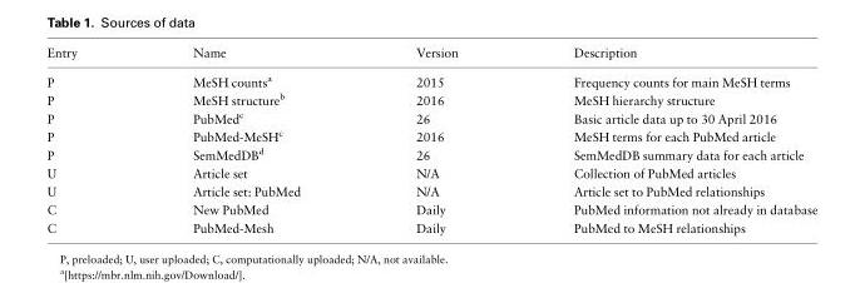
<table><thead><tr><td>Entry</td><td>Name</td><td>Version</td><td>Description</td></tr></thead><tbody><tr><td>P</td><td>MeSH counts<sup>a</sup></td><td>2015</td><td>Frequency counts for main MeSH terms</td></tr><tr><td>P</td><td>MeSH structure<sup>b</sup></td><td>2016</td><td>MeSH hierarchy structure</td></tr><tr><td>P</td><td>PubMed<sup>c</sup></td><td>26</td><td>Basic article data up to 30 April 2016</td></tr><tr><td>P</td><td>PubMed-MeSH<sup>c</sup></td><td>2016</td><td>MeSH terms for each PubMed article</td></tr><tr><td>P</td><td>SemMedDB<sup>d</sup></td><td>26</td><td>SemMedDB summary data for each article</td></tr><tr><td>U</td><td>Article set</td><td>N/A</td><td>Collection of PubMed articles</td></tr><tr><td>U</td><td>Article set: PubMed</td><td>N/A</td><td>Article set to PubMed relationships</td></tr><tr><td>C</td><td>New PubMed</td><td>Daily</td><td>PubMed information not already in database</td></tr><tr><td>C</td><td>PubMed-Mesh</td><td>Daily</td><td>PubMed to MeSH relationships</td></tr></tbody></table>